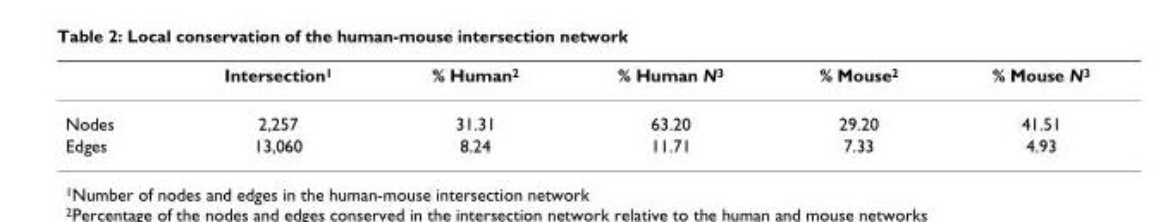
<table><thead><tr><td></td><td>Intersection<sup>1</sup></td><td>% Human<sup>2</sup></td><td>% Human N<sup>3</sup></td><td>% Mouse<sup>2</sup></td><td>% Mouse N<sup>3</sup></td></tr></thead><tbody><tr><td>Nodes</td><td>2,257</td><td>31.31</td><td>63.20</td><td>29.20</td><td>41.51</td></tr><tr><td>Edges</td><td>13,060</td><td>8.24</td><td>11.71</td><td>7.33</td><td>4.93</td></tr></tbody></table>